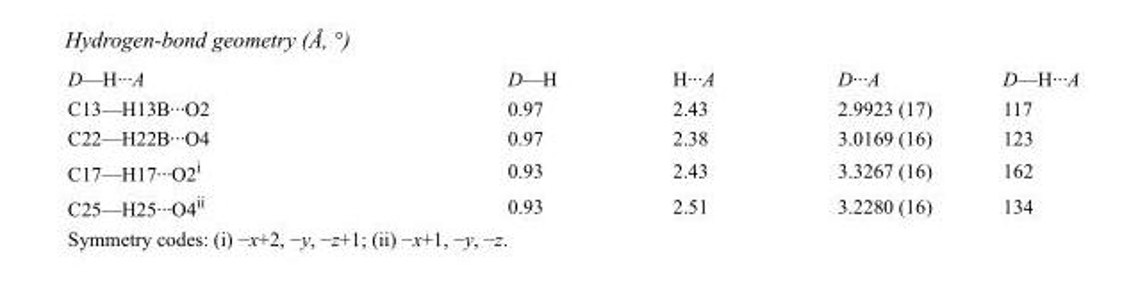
<table><tbody><tr><td>D—H···A</td><td>D—H</td><td>H···A</td><td>D···A</td><td>D—H···A</td></tr><tr><td>C13—H13B···O2</td><td>0.97</td><td>2.43</td><td>2.9923 (17)</td><td>117</td></tr><tr><td>C22—H22B···O4</td><td>0.97</td><td>2.38</td><td>3.0169 (16)</td><td>123</td></tr><tr><td>C17—H17···O2<sup>i</sup></td><td>0.93</td><td>2.43</td><td>3.3267 (16)</td><td>162</td></tr><tr><td>C25—H25···O4<sup>ii</sup></td><td>0.93</td><td>2.51</td><td>3.2280 (16)</td><td>134</td></tr></tbody></table>